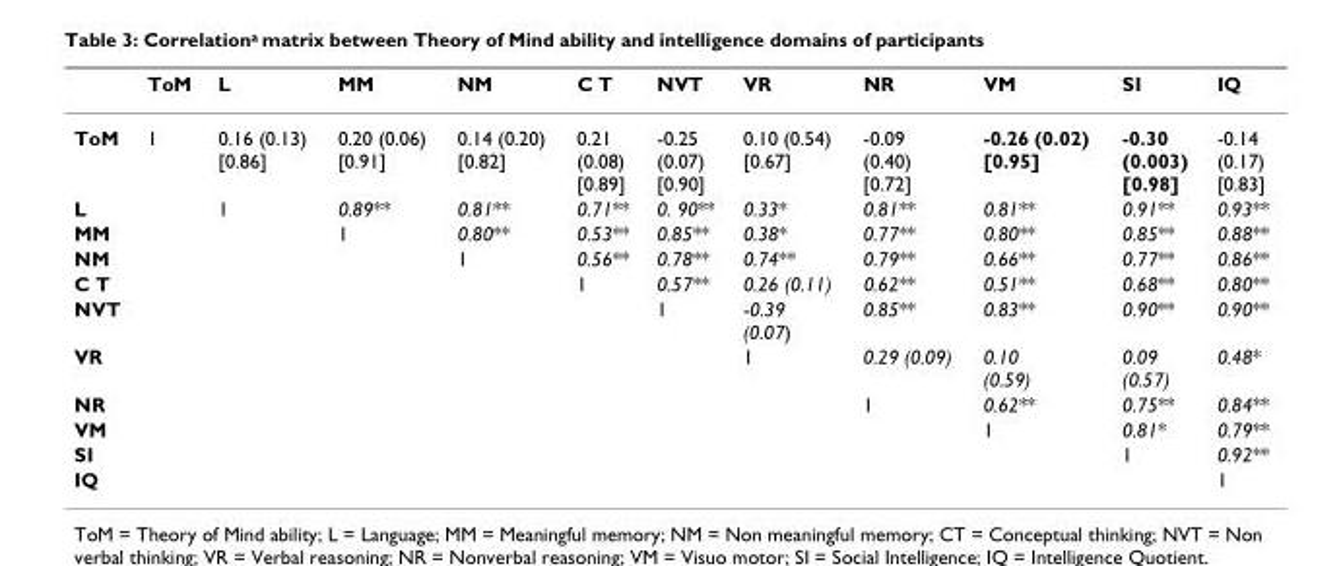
<table><thead><tr><td></td><td>ToM</td><td>L</td><td>MM</td><td>NM</td><td>C T</td><td>NVT</td><td>VR</td><td>NR</td><td>VM</td><td>SI</td><td>IQ</td></tr></thead><tbody><tr><td>ToM</td><td>1</td><td>0.16 (0.13) [0.86]</td><td>0.20 (0.06) [0.91]</td><td>0.14 (0.20) [0.82]</td><td>0.21 (0.08) [0.89]</td><td>-0.25 (0.07) [0.90]</td><td>0.10 (0.54) [0.67]</td><td>-0.09 (0.40) [0.72]</td><td>-0.26 (0.02) [0.95]</td><td>-0.30 (0.003) [0.98]</td><td>-0.14 (0.17) [0.83]</td></tr><tr><td>L</td><td></td><td>1</td><td>0.89**</td><td>0.81**</td><td>0.71**</td><td>0. 90**</td><td>0.33*</td><td>0.81**</td><td>0.81**</td><td>0.91**</td><td>0.93**</td></tr><tr><td>MM</td><td></td><td></td><td>1</td><td>0.80**</td><td>0.53**</td><td>0.85**</td><td>0.38*</td><td>0.77**</td><td>0.80**</td><td>0.85**</td><td>0.88**</td></tr><tr><td>NM</td><td></td><td></td><td></td><td>1</td><td>0.56**</td><td>0.78**</td><td>0.74**</td><td>0.79**</td><td>0.66**</td><td>0.77**</td><td>0.86**</td></tr><tr><td>C T</td><td></td><td></td><td></td><td></td><td>1</td><td>0.57**</td><td>0.26 (0.11)</td><td>0.62**</td><td>0.51**</td><td>0.68**</td><td>0.80**</td></tr><tr><td>NVT</td><td></td><td></td><td></td><td></td><td></td><td>1</td><td>-0.39 (0.07)</td><td>0.85**</td><td>0.83**</td><td>0.90**</td><td>0.90**</td></tr><tr><td>VR</td><td></td><td></td><td></td><td></td><td></td><td></td><td>1</td><td>0.29 (0.09)</td><td>0.10 (0.59)</td><td>0.09 (0.57)</td><td>0.48*</td></tr><tr><td>NR</td><td></td><td></td><td></td><td></td><td></td><td></td><td></td><td>1</td><td>0.62**</td><td>0.75**</td><td>0.84**</td></tr><tr><td>VM</td><td></td><td></td><td></td><td></td><td></td><td></td><td></td><td></td><td>1</td><td>0.81*</td><td>0.79**</td></tr><tr><td>SI</td><td></td><td></td><td></td><td></td><td></td><td></td><td></td><td></td><td></td><td>1</td><td>0.92**</td></tr><tr><td>IQ</td><td></td><td></td><td></td><td></td><td></td><td></td><td></td><td></td><td></td><td></td><td>1</td></tr></tbody></table>